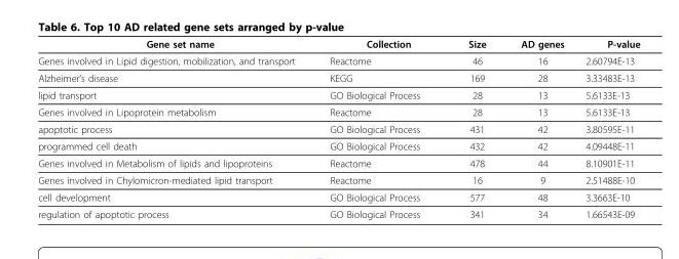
<table><thead><tr><td>Gene set name</td><td>Collection</td><td>Size</td><td>AD genes</td><td>P-value</td></tr></thead><tbody><tr><td>Genes involved in Lipid digestion, mobilization, and transport</td><td>Reactome</td><td>46</td><td>16</td><td>2.60794E-13</td></tr><tr><td>Alzheimer’s disease</td><td>KEGG</td><td>169</td><td>28</td><td>3.33483E-13</td></tr><tr><td>lipid transport</td><td>GO Biological Process</td><td>28</td><td>13</td><td>5.6133E-13</td></tr><tr><td>Genes involved in Lipoprotein metabolism</td><td>Reactome</td><td>28</td><td>13</td><td>5.6133E-13</td></tr><tr><td>apoptotic process</td><td>GO Biological Process</td><td>431</td><td>42</td><td>3.80595E-11</td></tr><tr><td>programmed cell death</td><td>GO Biological Process</td><td>432</td><td>42</td><td>4.09448E-11</td></tr><tr><td>Genes involved in Metabolism of lipids and lipoproteins</td><td>Reactome</td><td>478</td><td>44</td><td>8.10901E-11</td></tr><tr><td>Genes involved in Chylomicron-mediated lipid transport</td><td>Reactome</td><td>16</td><td>9</td><td>2.51488E-10</td></tr><tr><td>cell development</td><td>GO Biological Process</td><td>577</td><td>48</td><td>3.3663E-10</td></tr><tr><td>regulation of apoptotic process</td><td>GO Biological Process</td><td>341</td><td>34</td><td>1.66543E-09</td></tr></tbody></table>